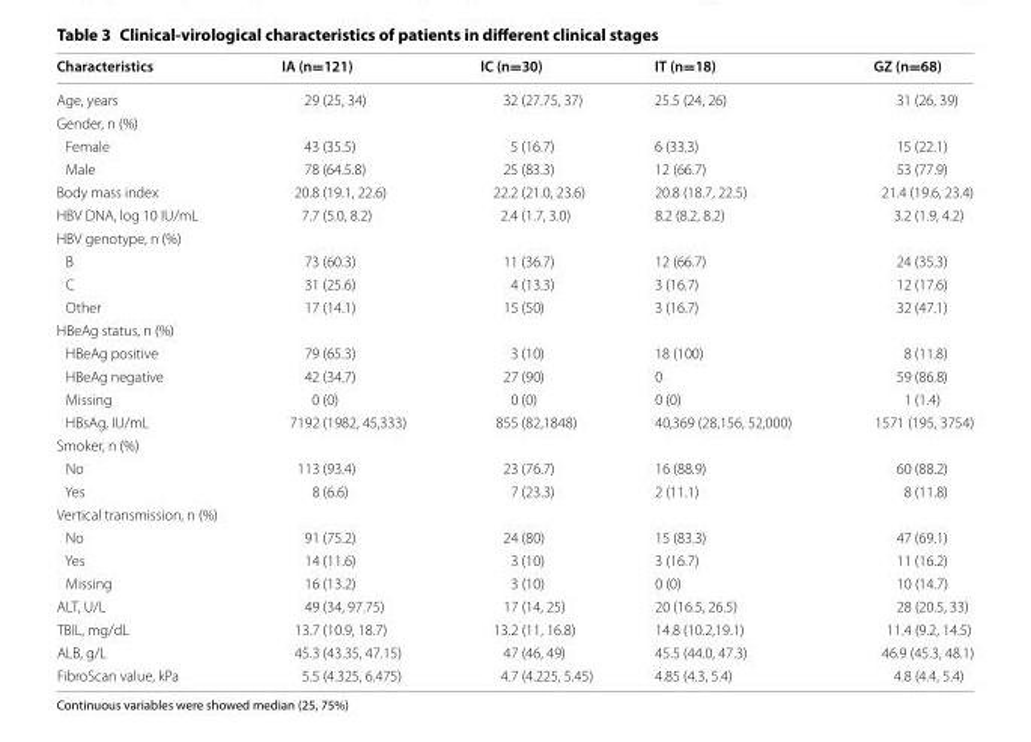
<table><thead><tr><td>Characteristics</td><td>IA (n=121)</td><td>IC (n=30)</td><td>IT (n=18)</td><td>GZ (n=68)</td></tr></thead><tbody><tr><td>Age, years</td><td>29 (25, 34)</td><td>32 (27.75, 37)</td><td>25.5 (24, 26)</td><td>31 (26, 39)</td></tr><tr><td colspan="5">Gender, n (%)</td></tr><tr><td>Female</td><td>43 (35.5)</td><td>5 (16.7)</td><td>6 (33.3)</td><td>15 (22.1)</td></tr><tr><td>Male</td><td>78 (64.5.8)</td><td>25 (83.3)</td><td>12 (66.7)</td><td>53 (77.9)</td></tr><tr><td>Body mass index</td><td>20.8 (19.1, 22.6)</td><td>22.2 (21.0, 23.6)</td><td>20.8 (18.7, 22.5)</td><td>21.4 (19.6, 23.4)</td></tr><tr><td>HBV DNA, log 10 IU/mL</td><td>7.7 (5.0, 8.2)</td><td>2.4 (1.7, 3.0)</td><td>8.2 (8.2, 8.2)</td><td>3.2 (1.9, 4.2)</td></tr><tr><td colspan="5">HBV genotype, n (%)</td></tr><tr><td>B</td><td>73 (60.3)</td><td>11 (36.7)</td><td>12 (66.7)</td><td>24 (35.3)</td></tr><tr><td>C</td><td>31 (25.6)</td><td>4 (13.3)</td><td>3 (16.7)</td><td>12 (17.6)</td></tr><tr><td>Other</td><td>17 (14.1)</td><td>15 (50)</td><td>3 (16.7)</td><td>32 (47.1)</td></tr><tr><td colspan="5">HBeAg status, n (%)</td></tr><tr><td>HBeAg positive</td><td>79 (65.3)</td><td>3 (10)</td><td>18 (100)</td><td>8 (11.8)</td></tr><tr><td>HBeAg negative</td><td>42 (34.7)</td><td>27 (90)</td><td>0</td><td>59 (86.8)</td></tr><tr><td>Missing</td><td>0 (0)</td><td>0 (0)</td><td>0 (0)</td><td>1 (1.4)</td></tr><tr><td>HBsAg, IU/mL</td><td>7192 (1982, 45,333)</td><td>855 (82,1848)</td><td>40,369 (28,156, 52,000)</td><td>1571 (195, 3754)</td></tr><tr><td colspan="5">Smoker, n (%)</td></tr><tr><td>No</td><td>113 (93.4)</td><td>23 (76.7)</td><td>16 (88.9)</td><td>60 (88.2)</td></tr><tr><td>Yes</td><td>8 (6.6)</td><td>7 (23.3)</td><td>2 (11.1)</td><td>8 (11.8)</td></tr><tr><td colspan="5">Vertical transmission, n (%)</td></tr><tr><td>No</td><td>91 (75.2)</td><td>24 (80)</td><td>15 (83.3)</td><td>47 (69.1)</td></tr><tr><td>Yes</td><td>14 (11.6)</td><td>3 (10)</td><td>3 (16.7)</td><td>11 (16.2)</td></tr><tr><td>Missing</td><td>16 (13.2)</td><td>3 (10)</td><td>0 (0)</td><td>10 (14.7)</td></tr><tr><td>ALT, U/L</td><td>49 (34, 97.75)</td><td>17 (14, 25)</td><td>20 (16.5, 26.5)</td><td>28 (20.5, 33)</td></tr><tr><td>TBIL, mg/dL</td><td>13.7 (10.9, 18.7)</td><td>13.2 (11, 16.8)</td><td>14.8 (10.2,19.1)</td><td>11.4 (9.2, 14.5)</td></tr><tr><td>ALB, g/L</td><td>45.3 (43.35, 47.15)</td><td>47 (46, 49)</td><td>45.5 (44.0, 47.3)</td><td>46.9 (45.3, 48.1)</td></tr><tr><td>FibroScan value, kPa</td><td>5.5 (4.325, 6.475)</td><td>4.7 (4.225, 5.45)</td><td>4.85 (4.3, 5.4)</td><td>4.8 (4.4, 5.4)</td></tr></tbody></table>